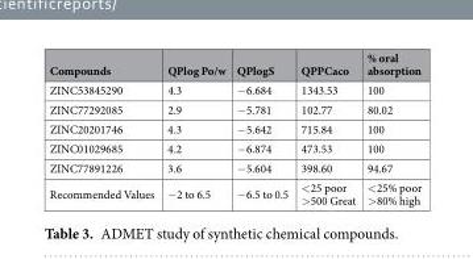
<table><thead><tr><td>Compounds</td><td>QPlog Po/w</td><td>QPlogS</td><td>QPPCaco</td><td>% oral absorption</td></tr></thead><tbody><tr><td>ZINC53845290</td><td>4.3</td><td>−6.684</td><td>1343.53</td><td>100</td></tr><tr><td>ZINC77292085</td><td>2.9</td><td>−5.781</td><td>102.77</td><td>80.02</td></tr><tr><td>ZINC20201746</td><td>4.3</td><td>−5.642</td><td>715.84</td><td>100</td></tr><tr><td>ZINC01029685</td><td>4.2</td><td>−6.874</td><td>473.53</td><td>100</td></tr><tr><td>ZINC77891226</td><td>3.6</td><td>−5.604</td><td>398.60</td><td>94.67</td></tr><tr><td>Recommended Values</td><td>−2 to 6.5</td><td>−6.5 to 0.5</td><td>&lt;25 poor &gt;500 Great</td><td>&lt;25% poor &gt;80% high</td></tr></tbody></table>